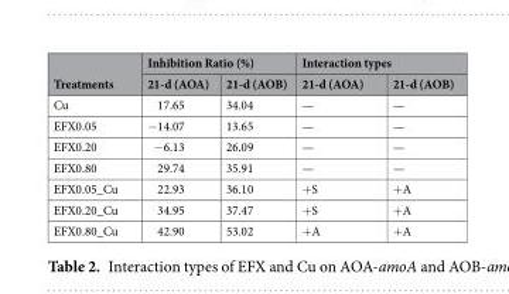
<table><thead><tr><td rowspan="2">Treatments</td><td colspan="2">Inhibition Ratio (%)</td><td colspan="2">Interaction types</td></tr><tr><td>21-d (AOA)</td><td>21-d (AOB)</td><td>21-d (AOA)</td><td>21-d (AOB)</td></tr></thead><tbody><tr><td>Cu</td><td>17.65</td><td>34.04</td><td>—</td><td>—</td></tr><tr><td>EFX0.05</td><td>−14.07</td><td>13.65</td><td>—</td><td>—</td></tr><tr><td>EFX0.20</td><td>−6.13</td><td>26.09</td><td>—</td><td>—</td></tr><tr><td>EFX0.80</td><td>29.74</td><td>35.91</td><td>—</td><td>—</td></tr><tr><td>EFX0.05_Cu</td><td>22.93</td><td>36.10</td><td>+S</td><td>+A</td></tr><tr><td>EFX0.20_Cu</td><td>34.95</td><td>37.47</td><td>+S</td><td>+A</td></tr><tr><td>EFX0.80_Cu</td><td>42.90</td><td>53.02</td><td>+A</td><td>+A</td></tr></tbody></table>